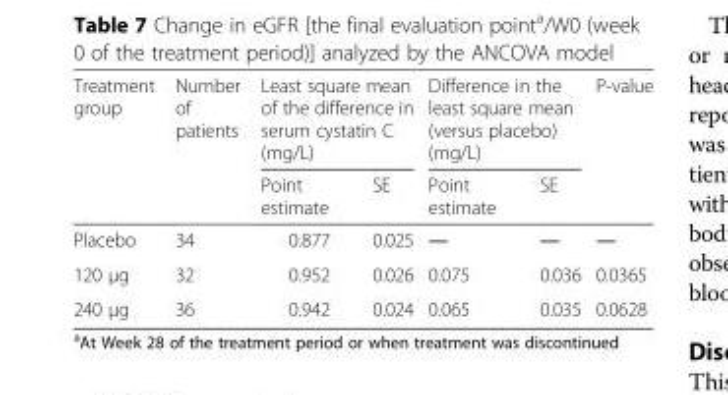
<table><thead><tr><td rowspan="2">Treatment group</td><td rowspan="2">Number of patients</td><td colspan="2">Least square mean of the difference in serum cystatin C (mg/L)</td><td colspan="2">Difference in the least square mean (versus placebo) (mg/L)</td><td rowspan="2">P-value</td></tr><tr><td>Point estimate</td><td>SE</td><td>Point estimate</td><td>SE</td></tr></thead><tbody><tr><td>Placebo</td><td>34</td><td>0.877</td><td>0.025</td><td>―</td><td>―</td><td>―</td></tr><tr><td>120 μg</td><td>32</td><td>0.952</td><td>0.026</td><td>0.075</td><td>0.036</td><td>0.0365</td></tr><tr><td>240 μg</td><td>36</td><td>0.942</td><td>0.024</td><td>0.065</td><td>0.035</td><td>0.0628</td></tr></tbody></table>